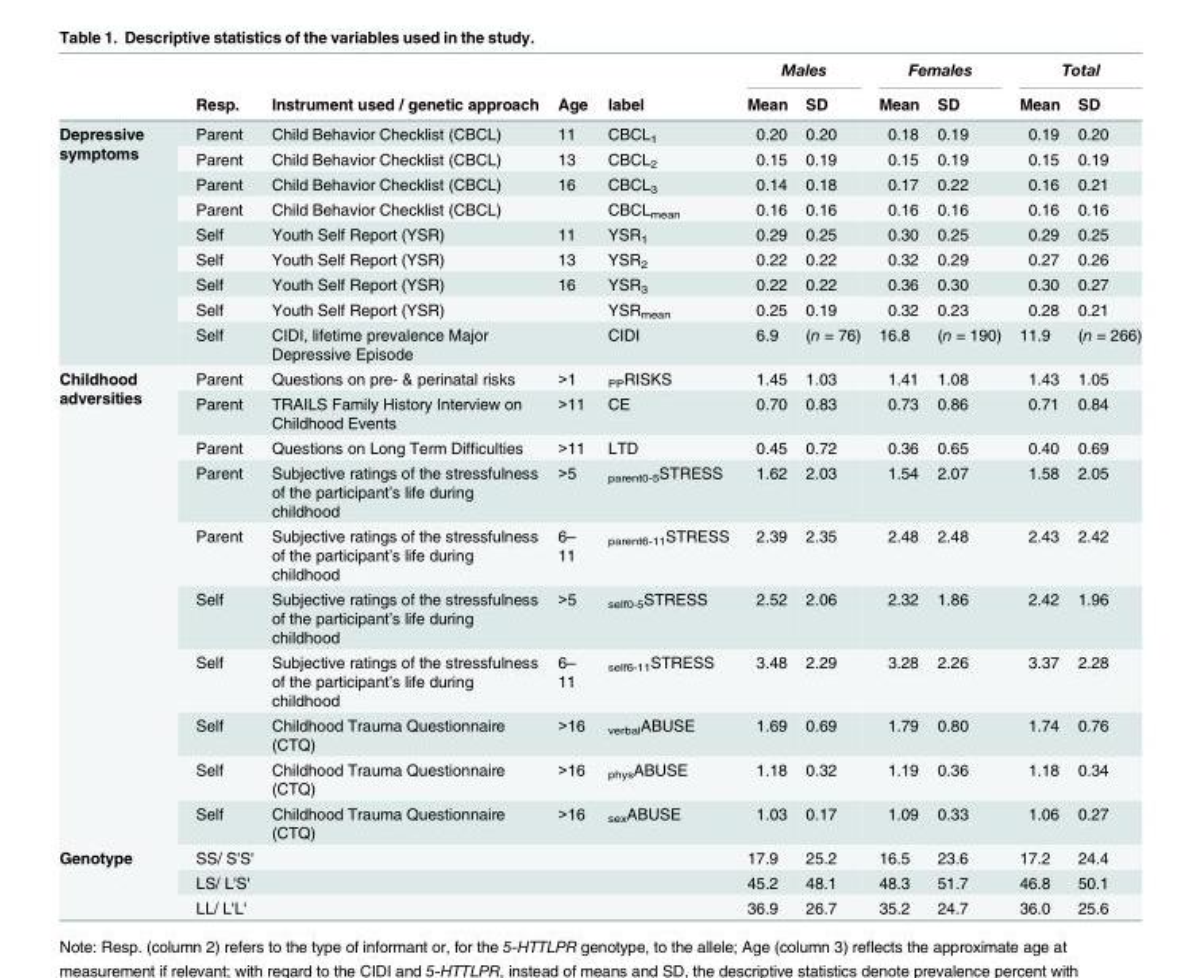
<table><thead><tr><td rowspan="2"></td><td rowspan="2">Resp.</td><td rowspan="2">Instrument used / genetic approach</td><td rowspan="2">Age</td><td rowspan="2">label</td><td colspan="2">Males</td><td colspan="2">Females</td><td colspan="2">Total</td></tr><tr><td>Mean</td><td>SD</td><td>Mean</td><td>SD</td><td>Mean</td><td>SD</td></tr></thead><tbody><tr><td rowspan="9">Depressive symptoms</td><td>Parent</td><td>Child Behavior Checklist (CBCL)</td><td>11</td><td>CBCL<sub>1</sub></td><td>0.20</td><td>0.20</td><td>0.18</td><td>0.19</td><td>0.19</td><td>0.20</td></tr><tr><td>Parent</td><td>Child Behavior Checklist (CBCL)</td><td>13</td><td>CBCL<sub>2</sub></td><td>0.15</td><td>0.19</td><td>0.15</td><td>0.19</td><td>0.15</td><td>0.19</td></tr><tr><td>Parent</td><td>Child Behavior Checklist (CBCL)</td><td>16</td><td>CBCL<sub>3</sub></td><td>0.14</td><td>0.18</td><td>0.17</td><td>0.22</td><td>0.16</td><td>0.21</td></tr><tr><td>Parent</td><td>Child Behavior Checklist (CBCL)</td><td></td><td>CBCL<sub>mean</sub></td><td>0.16</td><td>0.16</td><td>0.16</td><td>0.16</td><td>0.16</td><td>0.16</td></tr><tr><td>Self</td><td>Youth Self Report (YSR)</td><td>11</td><td>YSR<sub>1</sub></td><td>0.29</td><td>0.25</td><td>0.30</td><td>0.25</td><td>0.29</td><td>0.25</td></tr><tr><td>Self</td><td>Youth Self Report (YSR)</td><td>13</td><td>YSR<sub>2</sub></td><td>0.22</td><td>0.22</td><td>0.32</td><td>0.29</td><td>0.27</td><td>0.26</td></tr><tr><td>Self</td><td>Youth Self Report (YSR)</td><td>16</td><td>YSR<sub>3</sub></td><td>0.22</td><td>0.22</td><td>0.36</td><td>0.30</td><td>0.30</td><td>0.27</td></tr><tr><td>Self</td><td>Youth Self Report (YSR)</td><td></td><td>YSR<sub>mean</sub></td><td>0.25</td><td>0.19</td><td>0.32</td><td>0.23</td><td>0.28</td><td>0.21</td></tr><tr><td>Self</td><td>CIDI, lifetime prevalence Major Depressive Episode</td><td></td><td>CIDI</td><td>6.9</td><td>(n = 76)</td><td>16.8</td><td>(n = 190)</td><td>11.9</td><td>(n = 266)</td></tr><tr><td rowspan="10">Childhood adversities</td><td>Parent</td><td>Questions on pre- &amp; perinatal risks</td><td>&gt;1</td><td><sub>PP</sub>RISKS</td><td>1.45</td><td>1.03</td><td>1.41</td><td>1.08</td><td>1.43</td><td>1.05</td></tr><tr><td>Parent</td><td>TRAILS Family History Interview on Childhood Events</td><td>&gt;11</td><td>CE</td><td>0.70</td><td>0.83</td><td>0.73</td><td>0.86</td><td>0.71</td><td>0.84</td></tr><tr><td>Parent</td><td>Questions on Long Term Difficulties</td><td>&gt;11</td><td>LTD</td><td>0.45</td><td>0.72</td><td>0.36</td><td>0.65</td><td>0.40</td><td>0.69</td></tr><tr><td>Parent</td><td>Subjective ratings of the stressfulness of the participant’s life during childhood</td><td>&gt;5</td><td><sub>parent0-5</sub>STRESS</td><td>1.62</td><td>2.03</td><td>1.54</td><td>2.07</td><td>1.58</td><td>2.05</td></tr><tr><td>Parent</td><td>Subjective ratings of the stressfulness of the participant’s life during childhood</td><td>6– 11</td><td><sub>parent6-11</sub>STRESS</td><td>2.39</td><td>2.35</td><td>2.48</td><td>2.48</td><td>2.43</td><td>2.42</td></tr><tr><td>Self</td><td>Subjective ratings of the stressfulness of the participant’s life during childhood</td><td>&gt;5</td><td><sub>self0-5</sub>STRESS</td><td>2.52</td><td>2.06</td><td>2.32</td><td>1.86</td><td>2.42</td><td>1.96</td></tr><tr><td>Self</td><td>Subjective ratings of the stressfulness of the participant’s life during childhood</td><td>6– 11</td><td><sub>self6-11</sub>STRESS</td><td>3.48</td><td>2.29</td><td>3.28</td><td>2.26</td><td>3.37</td><td>2.28</td></tr><tr><td>Self</td><td>Childhood Trauma Questionnaire (CTQ)</td><td>&gt;16</td><td><sub>verbal</sub>ABUSE</td><td>1.69</td><td>0.69</td><td>1.79</td><td>0.80</td><td>1.74</td><td>0.76</td></tr><tr><td>Self</td><td>Childhood Trauma Questionnaire (CTQ)</td><td>&gt;16</td><td><sub>phys</sub>ABUSE</td><td>1.18</td><td>0.32</td><td>1.19</td><td>0.36</td><td>1.18</td><td>0.34</td></tr><tr><td>Self</td><td>Childhood Trauma Questionnaire (CTQ)</td><td>&gt;16</td><td><sub>sex</sub>ABUSE</td><td>1.03</td><td>0.17</td><td>1.09</td><td>0.33</td><td>1.06</td><td>0.27</td></tr><tr><td rowspan="3">Genotype</td><td>SS/ S&#x27;S&#x27;</td><td></td><td></td><td></td><td>17.9</td><td>25.2</td><td>16.5</td><td>23.6</td><td>17.2</td><td>24.4</td></tr><tr><td>LS/ L&#x27;S&#x27;</td><td></td><td></td><td></td><td>45.2</td><td>48.1</td><td>48.3</td><td>51.7</td><td>46.8</td><td>50.1</td></tr><tr><td>LL/ L&#x27;L&#x27;</td><td></td><td></td><td></td><td>36.9</td><td>26.7</td><td>35.2</td><td>24.7</td><td>36.0</td><td>25.6</td></tr></tbody></table>